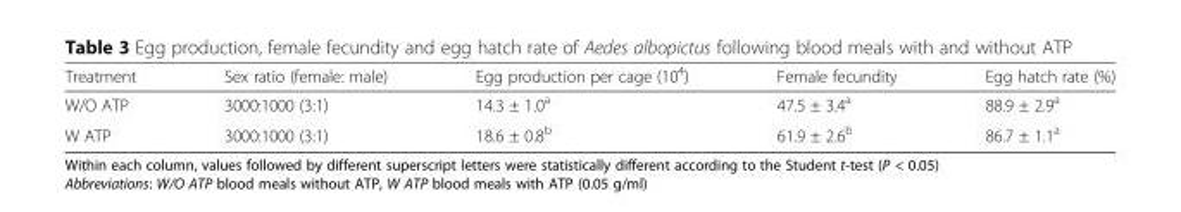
<table><thead><tr><td>Treatment</td><td>Sex ratio (female: male)</td><td>Egg production per cage (10<sup>4</sup>)</td><td>Female fecundity</td><td>Egg hatch rate (%)</td></tr></thead><tbody><tr><td>W/O ATP</td><td>3000:1000 (3:1)</td><td>14.3 ± 1.0<sup>a</sup></td><td>47.5 ± 3.4<sup>a</sup></td><td>88.9 ± 2.9<sup>a</sup></td></tr><tr><td>W ATP</td><td>3000:1000 (3:1)</td><td>18.6 ± 0.8<sup>b</sup></td><td>61.9 ± 2.6<sup>b</sup></td><td>86.7 ± 1.1<sup>a</sup></td></tr></tbody></table>